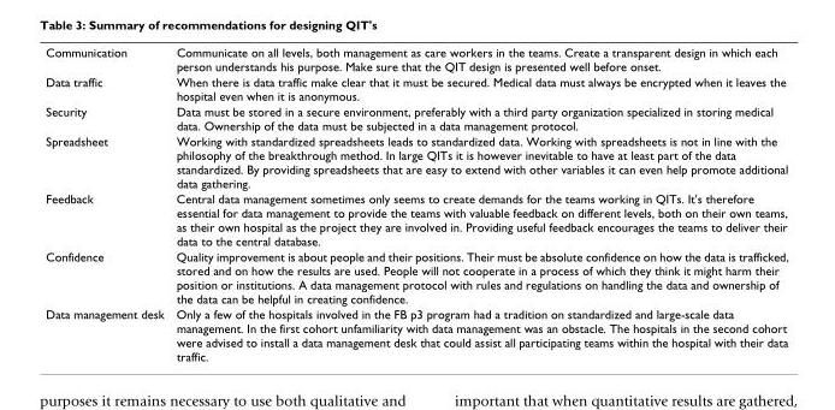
<table><tbody><tr><td>Communication</td><td>Communicate on all levels, both management as care workers in the teams. Create a transparent design in which each person understands his purpose. Make sure that the QIT design is presented well before onset.</td></tr><tr><td>Data traffic</td><td>When there is data traffic make clear that it must be secured. Medical data must always be encrypted when it leaves the hospital even when it is anonymous.</td></tr><tr><td>Security</td><td>Data must be stored in a secure environment, preferably with a third party organization specialized in storing medical data. Ownership of the data must be subjected in a data management protocol.</td></tr><tr><td>Spreadsheet</td><td>Working with standardized spreadsheets leads to standardized data. Working with spreadsheets is not in line with the philosophy of the breakthrough method. In large QITs it is however inevitable to have at least part of the data standardized. By providing spreadsheets that are easy to extend with other variables it can even help promote additional data gathering.</td></tr><tr><td>Feedback</td><td>Central data management sometimes only seems to create demands for the teams working in QITs. It&#x27;s therefore essential for data management to provide the teams with valuable feedback on different levels, both on their own teams, as their own hospital as the project they are involved in. Providing useful feedback encourages the teams to deliver their data to the central database.</td></tr><tr><td>Confidence</td><td>Quality improvement is about people and their positions. Their must be absolute confidence on how the data is trafficked, stored and on how the results are used. People will not cooperate in a process of which they think it might harm their position or institutions. A data management protocol with rules and regulations on handling the data and ownership of the data can be helpful in creating confidence.</td></tr><tr><td>Data management desk</td><td>Only a few of the hospitals involved in the FB p3 program had a tradition on standardized and large-scale data management. In the first cohort unfamiliarity with data management was an obstacle. The hospitals in the second cohort were advised to install a data management desk that could assist all participating teams within the hospital with their data traffic.</td></tr></tbody></table>